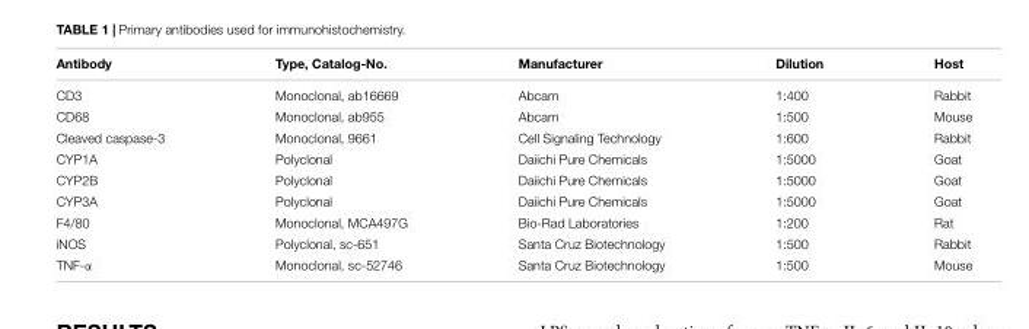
<table><thead><tr><td>Antibody</td><td>Type, Catalog-No.</td><td>Manufacturer</td><td>Dilution</td><td>Host</td></tr></thead><tbody><tr><td>CD3</td><td>Monoclonal, ab16669</td><td>Abcam</td><td>1:400</td><td>Rabbit</td></tr><tr><td>CD68</td><td>Monoclonal, ab955</td><td>Abcam</td><td>1:500</td><td>Mouse</td></tr><tr><td>Cleaved caspase-3</td><td>Monoclonal, 9661</td><td>Cell Signaling Technology</td><td>1:600</td><td>Rabbit</td></tr><tr><td>CYP1A</td><td>Polyclonal</td><td>Daiichi Pure Chemicals</td><td>1:5000</td><td>Goat</td></tr><tr><td>CYP2B</td><td>Polyclonal</td><td>Daiichi Pure Chemicals</td><td>1:5000</td><td>Goat</td></tr><tr><td>CYP3A</td><td>Polyclonal</td><td>Daiichi Pure Chemicals</td><td>1:5000</td><td>Goat</td></tr><tr><td>F4/80</td><td>Monoclonal, MCA497G</td><td>Bio-Rad Laboratories</td><td>1:200</td><td>Rat</td></tr><tr><td>iNOS</td><td>Polyclonal, sc-651</td><td>Santa Cruz Biotechnology</td><td>1:500</td><td>Rabbit</td></tr><tr><td>TNF-α</td><td>Monoclonal, sc-52746</td><td>Santa Cruz Biotechnology</td><td>1:500</td><td>Mouse</td></tr></tbody></table>